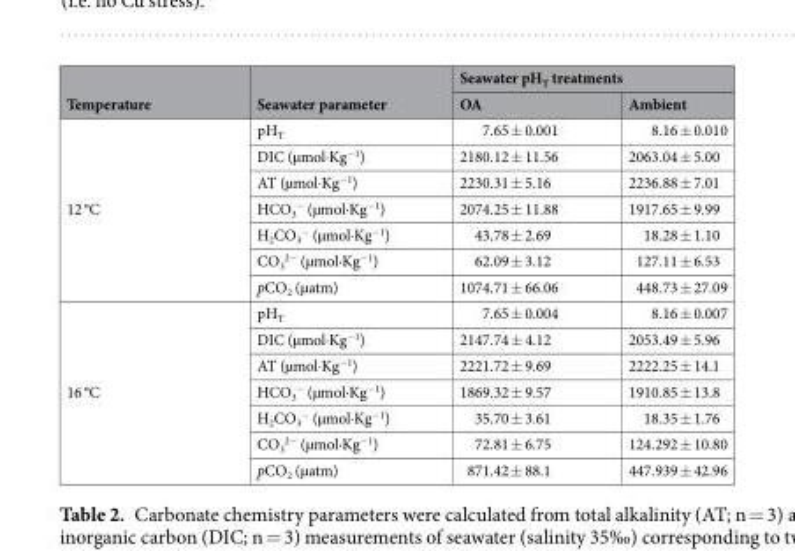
<table><thead><tr><td rowspan="2">Temperature</td><td rowspan="2">Seawater parameter</td><td colspan="2">Seawater pH<sub>T</sub> treatments</td></tr><tr><td>OA</td><td>Ambient</td></tr></thead><tbody><tr><td rowspan="7">12 °C</td><td>pH<sub>T</sub></td><td>7.65 ± 0.001</td><td>8.16 ± 0.010</td></tr><tr><td>DIC (µmol·Kg<sup>−1</sup>)</td><td>2180.12 ± 11.56</td><td>2063.04 ± 5.00</td></tr><tr><td>AT (µmol·Kg<sup>−1</sup>)</td><td>2230.31 ± 5.16</td><td>2236.88 ± 7.01</td></tr><tr><td>HCO<sub>3</sub> <sup>−</sup> (µmol·Kg<sup>−1</sup>)</td><td>2074.25 ± 11.88</td><td>1917.65 ± 9.99</td></tr><tr><td>H<sub>2</sub>CO<sub>3</sub> <sup>−</sup> (µmol·Kg<sup>−1</sup>)</td><td>43.78 ± 2.69</td><td>18.28 ± 1.10</td></tr><tr><td>CO<sub>3</sub> <sup>2−</sup> (µmol·Kg<sup>−1</sup>)</td><td>62.09 ± 3.12</td><td>127.11 ± 6.53</td></tr><tr><td>pCO<sub>2</sub> (µatm)</td><td>1074.71 ± 66.06</td><td>448.73 ± 27.09</td></tr><tr><td rowspan="7">16 °C</td><td>pH<sub>T</sub></td><td>7.65 ± 0.004</td><td>8.16 ± 0.007</td></tr><tr><td>DIC (µmol·Kg<sup>−1</sup>)</td><td>2147.74 ± 4.12</td><td>2053.49 ± 5.96</td></tr><tr><td>AT (µmol·Kg<sup>−1</sup>)</td><td>2221.72 ± 9.69</td><td>2222.25 ± 14.1</td></tr><tr><td>HCO<sub>3</sub> <sup>−</sup> (µmol·Kg<sup>−1</sup>)</td><td>1869.32 ± 9.57</td><td>1910.85 ± 13.8</td></tr><tr><td>H<sub>2</sub>CO<sub>3</sub> <sup>−</sup> (µmol·Kg<sup>−1</sup>)</td><td>35.70 ± 3.61</td><td>18.35 ± 1.76</td></tr><tr><td>CO<sub>3</sub> <sup>2−</sup> (µmol·Kg<sup>−1</sup>)</td><td>72.81 ± 6.75</td><td>124.292 ± 10.80</td></tr><tr><td>pCO<sub>2</sub> (µatm)</td><td>871.42 ± 88.1</td><td>447.939 ± 42.96</td></tr></tbody></table>